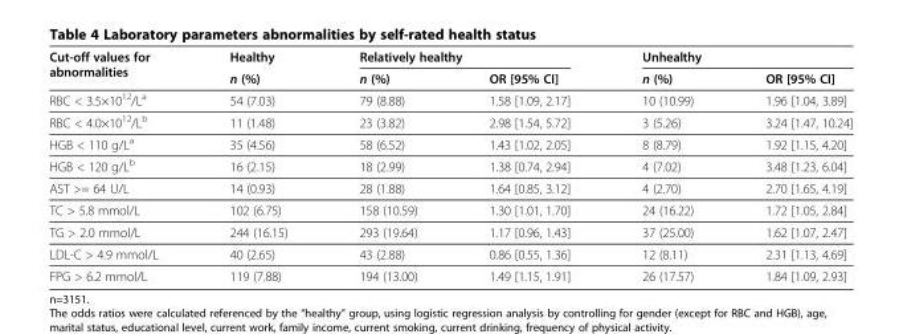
<table><thead><tr><td rowspan="2">Cut-off values for abnormalities</td><td rowspan="2">Healthy n (%)</td><td colspan="2">Relatively healthy</td><td colspan="2">Unhealthy</td></tr><tr><td>n (%)</td><td>OR [95% CI]</td><td>n (%)</td><td>OR [95% CI]</td></tr></thead><tbody><tr><td>RBC &lt; 3.5×10<sup>12</sup>/L<sup>a</sup></td><td>54 (7.03)</td><td>79 (8.88)</td><td>1.58 [1.09, 2.17]</td><td>10 (10.99)</td><td>1.96 [1.04, 3.89]</td></tr><tr><td>RBC &lt; 4.0×10<sup>12</sup>/L<sup>b</sup></td><td>11 (1.48)</td><td>23 (3.82)</td><td>2.98 [1.54, 5.72]</td><td>3 (5.26)</td><td>3.24 [1.47, 10.24]</td></tr><tr><td>HGB &lt; 110 g/L<sup>a</sup></td><td>35 (4.56)</td><td>58 (6.52)</td><td>1.43 [1.02, 2.05]</td><td>8 (8.79)</td><td>1.92 [1.15, 4.20]</td></tr><tr><td>HGB &lt; 120 g/L<sup>b</sup></td><td>16 (2.15)</td><td>18 (2.99)</td><td>1.38 [0.74, 2.94]</td><td>4 (7.02)</td><td>3.48 [1.23, 6.04]</td></tr><tr><td>AST &gt;= 64 U/L</td><td>14 (0.93)</td><td>28 (1.88)</td><td>1.64 [0.85, 3.12]</td><td>4 (2.70)</td><td>2.70 [1.65, 4.19]</td></tr><tr><td>TC &gt; 5.8 mmol/L</td><td>102 (6.75)</td><td>158 (10.59)</td><td>1.30 [1.01, 1.70]</td><td>24 (16.22)</td><td>1.72 [1.05, 2.84]</td></tr><tr><td>TG &gt; 2.0 mmol/L</td><td>244 (16.15)</td><td>293 (19.64)</td><td>1.17 [0.96, 1.43]</td><td>37 (25.00)</td><td>1.62 [1.07, 2.47]</td></tr><tr><td>LDL-C &gt; 4.9 mmol/L</td><td>40 (2.65)</td><td>43 (2.88)</td><td>0.86 [0.55, 1.36]</td><td>12 (8.11)</td><td>2.31 [1.13, 4.69]</td></tr><tr><td>FPG &gt; 6.2 mmol/L</td><td>119 (7.88)</td><td>194 (13.00)</td><td>1.49 [1.15, 1.91]</td><td>26 (17.57)</td><td>1.84 [1.09, 2.93]</td></tr></tbody></table>